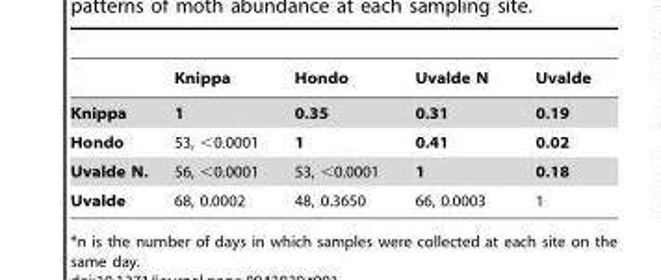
<table><thead><tr><td></td><td>Knippa</td><td>Hondo</td><td>Uvalde N</td><td>Uvalde</td></tr></thead><tbody><tr><td>Knippa</td><td>1</td><td>0.35</td><td>0.31</td><td>0.19</td></tr><tr><td>Hondo</td><td>53, &lt;0.0001</td><td>1</td><td>0.41</td><td>0.02</td></tr><tr><td>Uvalde N.</td><td>56, &lt;0.0001</td><td>53, &lt;0.0001</td><td>1</td><td>0.18</td></tr><tr><td>Uvalde</td><td>68, 0.0002</td><td>48, 0.3650</td><td>66, 0.0003</td><td>1</td></tr></tbody></table>